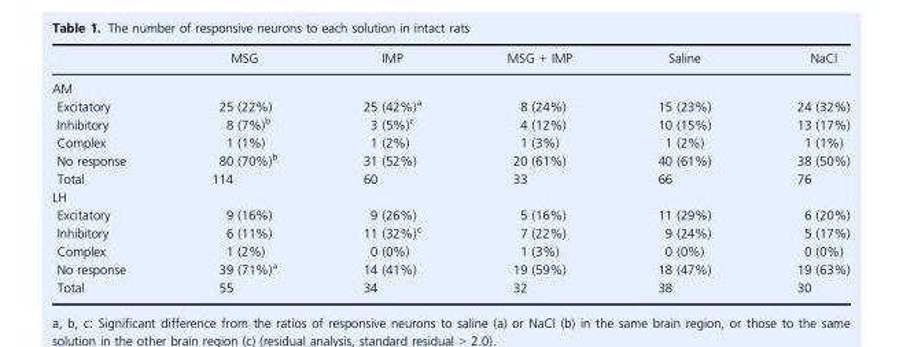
<table><thead><tr><td></td><td>MSG</td><td>IMP</td><td>MSG + IMP</td><td>Saline</td><td>NaCl</td></tr></thead><tbody><tr><td colspan="6">AM</td></tr><tr><td>Excitatory</td><td>25 (22%)</td><td>25 (42%)<sup>a</sup></td><td>8 (24%)</td><td>15 (23%)</td><td>24 (32%)</td></tr><tr><td>Inhibitory</td><td>8 (7%)<sup>b</sup></td><td>3 (5%)<sup>c</sup></td><td>4 (12%)</td><td>10 (15%)</td><td>13 (17%)</td></tr><tr><td>Complex</td><td>1 (1%)</td><td>1 (2%)</td><td>1 (3%)</td><td>1 (2%)</td><td>1 (1%)</td></tr><tr><td>No response</td><td>80 (70%)<sup>b</sup></td><td>31 (52%)</td><td>20 (61%)</td><td>40 (61%)</td><td>38 (50%)</td></tr><tr><td>Total</td><td>114</td><td>60</td><td>33</td><td>66</td><td>76</td></tr><tr><td colspan="6">LH</td></tr><tr><td>Excitatory</td><td>9 (16%)</td><td>9 (26%)</td><td>5 (16%)</td><td>11 (29%)</td><td>6 (20%)</td></tr><tr><td>Inhibitory</td><td>6 (11%)</td><td>11 (32%)<sup>c</sup></td><td>7 (22%)</td><td>9 (24%)</td><td>5 (17%)</td></tr><tr><td>Complex</td><td>1 (2%)</td><td>0 (0%)</td><td>1 (3%)</td><td>0 (0%)</td><td>0 (0%)</td></tr><tr><td>No response</td><td>39 (71%)<sup>a</sup></td><td>14 (41%)</td><td>19 (59%)</td><td>18 (47%)</td><td>19 (63%)</td></tr><tr><td>Total</td><td>55</td><td>34</td><td>32</td><td>38</td><td>30</td></tr></tbody></table>